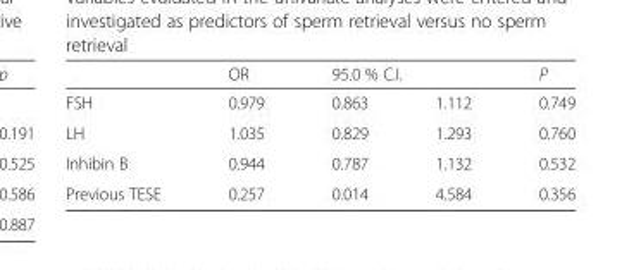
<table><thead><tr><td rowspan="2">FSH</td><td rowspan="2">OR 0.979</td><td colspan="2">95.0 % C.I.</td><td rowspan="2">P 0.749</td></tr><tr><td>0.863</td><td>1.112</td></tr></thead><tbody><tr><td>LH</td><td>1.035</td><td>0.829</td><td>1.293</td><td>0.760</td></tr><tr><td>Inhibin B</td><td>0.944</td><td>0.787</td><td>1.132</td><td>0.532</td></tr><tr><td>Previous TESE</td><td>0.257</td><td>0.014</td><td>4.584</td><td>0.356</td></tr></tbody></table>